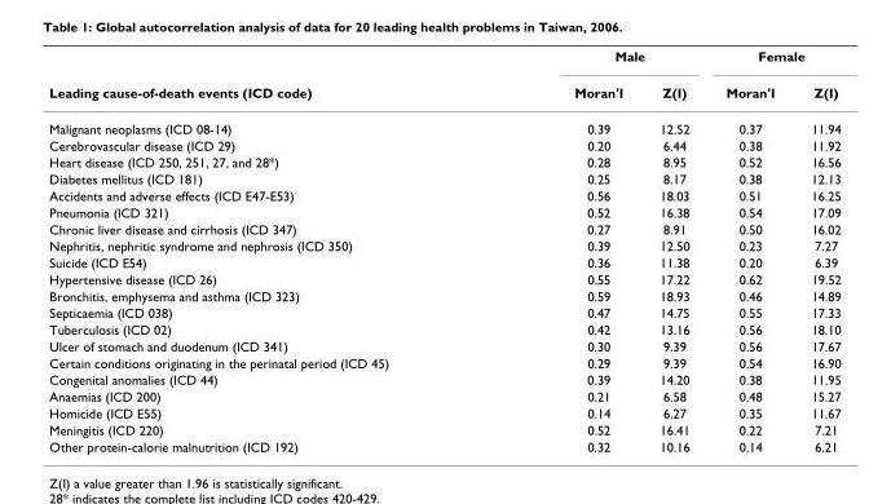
<table><thead><tr><td rowspan="2">Leading cause-of-death events (ICD code)</td><td colspan="2">Male</td><td colspan="2">Female</td></tr><tr><td>Moran&#x27;I</td><td>Z(I)</td><td>Moran&#x27;I</td><td>Z(I)</td></tr></thead><tbody><tr><td>Malignant neoplasms (ICD 08-14)</td><td>0.39</td><td>12.52</td><td>0.37</td><td>11.94</td></tr><tr><td>Cerebrovascular disease (ICD 29)</td><td>0.20</td><td>6.44</td><td>0.38</td><td>11.92</td></tr><tr><td>Heart disease (ICD 250, 251, 27, and 28*)</td><td>0.28</td><td>8.95</td><td>0.52</td><td>16.56</td></tr><tr><td>Diabetes mellitus (ICD 181)</td><td>0.25</td><td>8.17</td><td>0.38</td><td>12.13</td></tr><tr><td>Accidents and adverse effects (ICD E47-E53)</td><td>0.56</td><td>18.03</td><td>0.51</td><td>16.25</td></tr><tr><td>Pneumonia (ICD 321)</td><td>0.52</td><td>16.38</td><td>0.54</td><td>17.09</td></tr><tr><td>Chronic liver disease and cirrhosis (ICD 347)</td><td>0.27</td><td>8.91</td><td>0.50</td><td>16.02</td></tr><tr><td>Nephritis, nephritic syndrome and nephrosis (ICD 350)</td><td>0.39</td><td>12.50</td><td>0.23</td><td>7.27</td></tr><tr><td>Suicide (ICD E54)</td><td>0.36</td><td>11.38</td><td>0.20</td><td>6.39</td></tr><tr><td>Hypertensive disease (ICD 26)</td><td>0.55</td><td>17.22</td><td>0.62</td><td>19.52</td></tr><tr><td>Bronchitis, emphysema and asthma (ICD 323)</td><td>0.59</td><td>18.93</td><td>0.46</td><td>14.89</td></tr><tr><td>Septicaemia (ICD 038)</td><td>0.47</td><td>14.75</td><td>0.55</td><td>17.33</td></tr><tr><td>Tuberculosis (ICD 02)</td><td>0.42</td><td>13.16</td><td>0.56</td><td>18.10</td></tr><tr><td>Ulcer of stomach and duodenum (ICD 341)</td><td>0.30</td><td>9.39</td><td>0.56</td><td>17.67</td></tr><tr><td>Certain conditions originating in the perinatal period (ICD 45)</td><td>0.29</td><td>9.39</td><td>0.54</td><td>16.90</td></tr><tr><td>Congenital anomalies (ICD 44)</td><td>0.39</td><td>14.20</td><td>0.38</td><td>11.95</td></tr><tr><td>Anaemias (ICD 200)</td><td>0.21</td><td>6.58</td><td>0.48</td><td>15.27</td></tr><tr><td>Homicide (ICD E55)</td><td>0.14</td><td>6.27</td><td>0.35</td><td>11.67</td></tr><tr><td>Meningitis (ICD 220)</td><td>0.52</td><td>16.41</td><td>0.22</td><td>7.21</td></tr><tr><td>Other protein-calorie malnutrition (ICD 192)</td><td>0.32</td><td>10.16</td><td>0.14</td><td>6.21</td></tr></tbody></table>